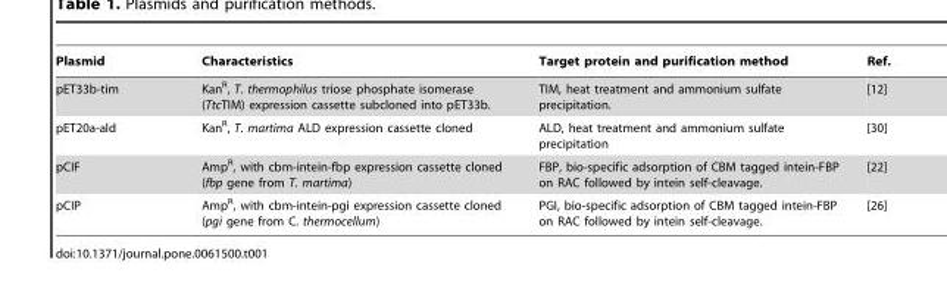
<table><thead><tr><td>Plasmid</td><td>Characteristics</td><td>Target protein and purification method</td><td>Ref.</td></tr></thead><tbody><tr><td>pET33b-tim</td><td>Kan<sup>R</sup>, T. thermophilus triose phosphate isomerase (TtcTIM) expression cassette subcloned into pET33b.</td><td>TIM, heat treatment and ammonium sulfate precipitation.</td><td>[12]</td></tr><tr><td>pET20a-ald</td><td>Kan<sup>R</sup>, T. martima ALD expression cassette cloned</td><td>ALD, heat treatment and ammonium sulfate precipitation</td><td>[30]</td></tr><tr><td>pCIF</td><td>Amp<sup>R</sup>, with cbm-intein-fbp expression cassette cloned (fbp gene from T. martima)</td><td>FBP, bio-specific adsorption of CBM tagged intein-FBP on RAC followed by intein self-cleavage.</td><td>[22]</td></tr><tr><td>pCIP</td><td>Amp<sup>R</sup>, with cbm-intein-pgi expression cassette cloned (pgi gene from C. thermocellum)</td><td>PGI, bio-specific adsorption of CBM tagged intein-FBP on RAC followed by intein self-cleavage.</td><td>[26]</td></tr></tbody></table>